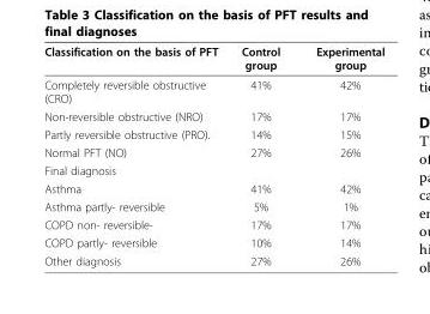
<table><thead><tr><td>Classification on the basis of PFT</td><td>Control group</td><td>Experimental group</td></tr></thead><tbody><tr><td>Completely reversible obstructive (CRO)</td><td>41%</td><td>42%</td></tr><tr><td>Non-reversible obstructive (NRO)</td><td>17%</td><td>17%</td></tr><tr><td>Partly reversible obstructive (PRO).</td><td>14%</td><td>15%</td></tr><tr><td>Normal PFT (NO)</td><td>27%</td><td>26%</td></tr><tr><td colspan="3">Final diagnosis</td></tr><tr><td>Asthma</td><td>41%</td><td>42%</td></tr><tr><td>Asthma partly- reversible</td><td>5%</td><td>1%</td></tr><tr><td>COPD non- reversible-</td><td>17%</td><td>17%</td></tr><tr><td>COPD partly- reversible</td><td>10%</td><td>14%</td></tr><tr><td>Other diagnosis</td><td>27%</td><td>26%</td></tr></tbody></table>